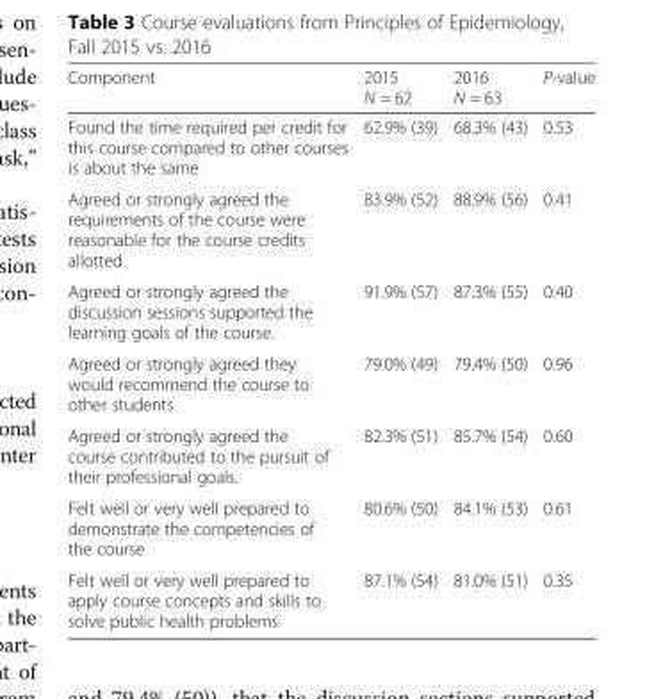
<table><thead><tr><td>Component</td><td>2015 N = 62</td><td>2016 N = 63</td><td>P-value</td></tr></thead><tbody><tr><td>Found the time required per credit for this course compared to other courses is about the same</td><td>62.9% (39)</td><td>68.3% (43)</td><td>0.53</td></tr><tr><td>Agreed or strongly agreed the requirements of the course were reasonable for the course credits allotted</td><td>83.9% (52)</td><td>88.9% (56)</td><td>0.41</td></tr><tr><td>Agreed or strongly agreed the discussion sessions supported the learning goals of the course.</td><td>91.9% (57)</td><td>87.3% (55)</td><td>0.40</td></tr><tr><td>Agreed or strongly agreed they would recommend the course to other students</td><td>79.0% (49)</td><td>79.4% (50)</td><td>0.96</td></tr><tr><td>Agreed or strongly agreed the course contributed to the pursuit of their professional goals.</td><td>82.3% (51)</td><td>85.7% (54)</td><td>0.60</td></tr><tr><td>Felt well or very well prepared to demonstrate the competencies of the course</td><td>80.6% (50)</td><td>84.1% (53)</td><td>0.61</td></tr><tr><td>Felt well or very well prepared to apply course concepts and skills to solve public health problems</td><td>87.1% (54)</td><td>81.0% (51)</td><td>0.35</td></tr></tbody></table>